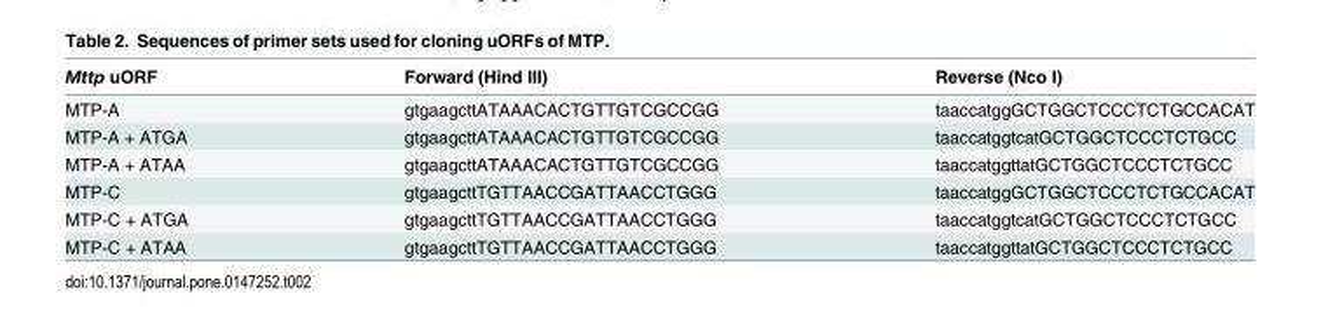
<table><thead><tr><td>Mttp uORF</td><td>Forward (Hind III)</td><td>Reverse (Nco I)</td></tr></thead><tbody><tr><td>MTP-A</td><td>gtgaagcttATAAACACTGTTGTCGCCGG</td><td>taaccatggGCTGGCTCCCTCTGCCACAT</td></tr><tr><td>MTP-A + ATGA</td><td>gtgaagcttATAAACACTGTTGTCGCCGG</td><td>taaccatggtcatGCTGGCTCCCTCTGCC</td></tr><tr><td>MTP-A + ATAA</td><td>gtgaagcttATAAACACTGTTGTCGCCGG</td><td>taaccatggttatGCTGGCTCCCTCTGCC</td></tr><tr><td>MTP-C</td><td>gtgaagcttTGTTAACCGATTAACCTGGG</td><td>taaccatggGCTGGCTCCCTCTGCCACAT</td></tr><tr><td>MTP-C + ATGA</td><td>gtgaagcttTGTTAACCGATTAACCTGGG</td><td>taaccatggtcatGCTGGCTCCCTCTGCC</td></tr><tr><td>MTP-C + ATAA</td><td>gtgaagcttTGTTAACCGATTAACCTGGG</td><td>taaccatggttatGCTGGCTCCCTCTGCC</td></tr></tbody></table>